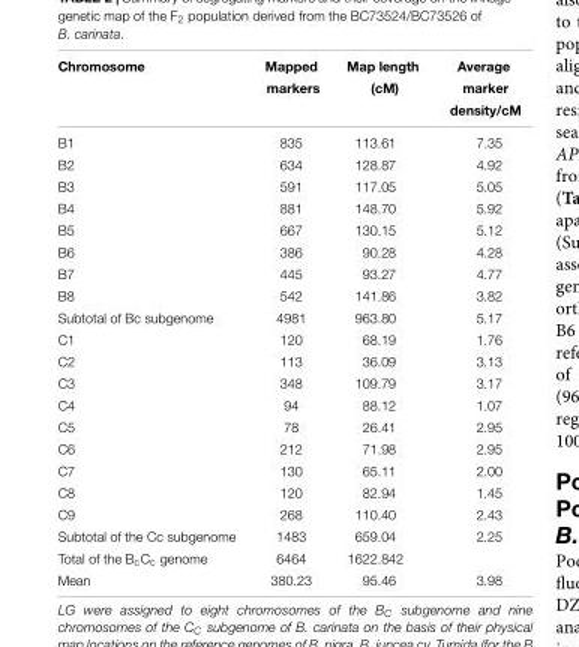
<table><thead><tr><td rowspan="3">Chromosome</td><td rowspan="3">Mapped markers</td><td rowspan="3">Map length (cM)</td><td rowspan="3">Average marker density/cM</td></tr><tr></tr><tr></tr></thead><tbody><tr><td>B1</td><td>835</td><td>113.61</td><td>7.35</td></tr><tr><td>B2</td><td>634</td><td>128.87</td><td>4.92</td></tr><tr><td>B3</td><td>591</td><td>117.05</td><td>5.05</td></tr><tr><td>B4</td><td>881</td><td>148.70</td><td>5.92</td></tr><tr><td>B5</td><td>667</td><td>130.15</td><td>5.12</td></tr><tr><td>B6</td><td>386</td><td>90.28</td><td>4.28</td></tr><tr><td>B7</td><td>445</td><td>93.27</td><td>4.77</td></tr><tr><td>B8</td><td>542</td><td>141.86</td><td>3.82</td></tr><tr><td>Subtotal of Bc subgenome</td><td>4981</td><td>963.80</td><td>5.17</td></tr><tr><td>C1</td><td>120</td><td>68.19</td><td>1.76</td></tr><tr><td>C2</td><td>113</td><td>36.09</td><td>3.13</td></tr><tr><td>C3</td><td>348</td><td>109.79</td><td>3.17</td></tr><tr><td>C4</td><td>94</td><td>88.12</td><td>1.07</td></tr><tr><td>C5</td><td>78</td><td>26.41</td><td>2.95</td></tr><tr><td>C6</td><td>212</td><td>71.98</td><td>2.95</td></tr><tr><td>C7</td><td>130</td><td>65.11</td><td>2.00</td></tr><tr><td>C8</td><td>120</td><td>82.94</td><td>1.45</td></tr><tr><td>C9</td><td>268</td><td>110.40</td><td>2.43</td></tr><tr><td>Subtotal of the Cc subgenome</td><td>1483</td><td>659.04</td><td>2.25</td></tr><tr><td>Total of the B<sub>c</sub>C<sub>c</sub> genome</td><td>6464</td><td>1622.842</td><td></td></tr><tr><td>Mean</td><td>380.23</td><td>95.46</td><td>3.98</td></tr></tbody></table>